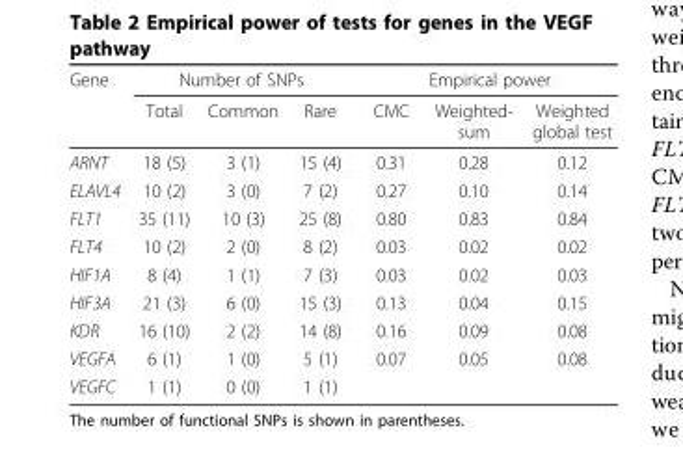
<table><thead><tr><td rowspan="2">Gene</td><td colspan="3">Number of SNPs</td><td colspan="3">Empirical power</td></tr><tr><td>Total</td><td>Common</td><td>Rare</td><td>CMC</td><td>Weighted- sum</td><td>Weighted global test</td></tr></thead><tbody><tr><td>ARNT</td><td>18 (5)</td><td>3 (1)</td><td>15 (4)</td><td>0.31</td><td>0.28</td><td>0.12</td></tr><tr><td>ELAVL4</td><td>10 (2)</td><td>3 (0)</td><td>7 (2)</td><td>0.27</td><td>0.10</td><td>0.14</td></tr><tr><td>FLT1</td><td>35 (11)</td><td>10 (3)</td><td>25 (8)</td><td>0.80</td><td>0.83</td><td>0.84</td></tr><tr><td>FLT4</td><td>10 (2)</td><td>2 (0)</td><td>8 (2)</td><td>0.03</td><td>0.02</td><td>0.02</td></tr><tr><td>HIF1A</td><td>8 (4)</td><td>1 (1)</td><td>7 (3)</td><td>0.03</td><td>0.02</td><td>0.03</td></tr><tr><td>HIF3A</td><td>21 (3)</td><td>6 (0)</td><td>15 (3)</td><td>0.13</td><td>0.04</td><td>0.15</td></tr><tr><td>KDR</td><td>16 (10)</td><td>2 (2)</td><td>14 (8)</td><td>0.16</td><td>0.09</td><td>0.08</td></tr><tr><td>VEGFA</td><td>6 (1)</td><td>1 (0)</td><td>5 (1)</td><td>0.07</td><td>0.05</td><td>0.08</td></tr><tr><td>VEGFC</td><td>1 (1)</td><td>0 (0)</td><td>1 (1)</td><td></td><td></td><td></td></tr></tbody></table>